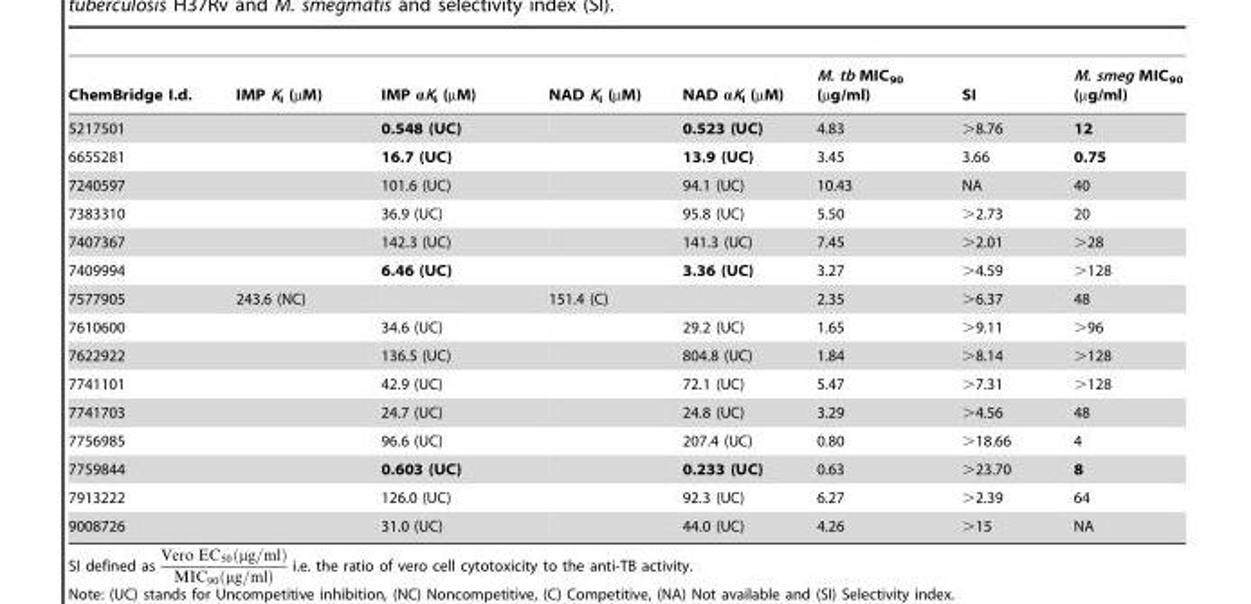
<table><thead><tr><td>ChemBridge I.d.</td><td>IMP K<sub>i</sub> (µM)</td><td>IMP αK<sub>i</sub> (µM)</td><td>NAD K<sub>i</sub> (µM)</td><td>NAD αK<sub>i</sub> (µM)</td><td>M. tb MIC<sub>90</sub> (µg/ml)</td><td>SI</td><td>M. smeg MIC<sub>90</sub> (µg/ml)</td></tr></thead><tbody><tr><td>5217501</td><td></td><td>0.548 (UC)</td><td></td><td>0.523 (UC)</td><td>4.83</td><td>&gt;8.76</td><td>12</td></tr><tr><td>6655281</td><td></td><td>16.7 (UC)</td><td></td><td>13.9 (UC)</td><td>3.45</td><td>3.66</td><td>0.75</td></tr><tr><td>7240597</td><td></td><td>101.6 (UC)</td><td></td><td>94.1 (UC)</td><td>10.43</td><td>NA</td><td>40</td></tr><tr><td>7383310</td><td></td><td>36.9 (UC)</td><td></td><td>95.8 (UC)</td><td>5.50</td><td>&gt;2.73</td><td>20</td></tr><tr><td>7407367</td><td></td><td>142.3 (UC)</td><td></td><td>141.3 (UC)</td><td>7.45</td><td>&gt;2.01</td><td>&gt;28</td></tr><tr><td>7409994</td><td></td><td>6.46 (UC)</td><td></td><td>3.36 (UC)</td><td>3.27</td><td>&gt;4.59</td><td>&gt;128</td></tr><tr><td>7577905</td><td>243.6 (NC)</td><td></td><td>151.4 (C)</td><td></td><td>2.35</td><td>&gt;6.37</td><td>48</td></tr><tr><td>7610600</td><td></td><td>34.6 (UC)</td><td></td><td>29.2 (UC)</td><td>1.65</td><td>&gt;9.11</td><td>&gt;96</td></tr><tr><td>7622922</td><td></td><td>136.5 (UC)</td><td></td><td>804.8 (UC)</td><td>1.84</td><td>&gt;8.14</td><td>&gt;128</td></tr><tr><td>7741101</td><td></td><td>42.9 (UC)</td><td></td><td>72.1 (UC)</td><td>5.47</td><td>&gt;7.31</td><td>&gt;128</td></tr><tr><td>7741703</td><td></td><td>24.7 (UC)</td><td></td><td>24.8 (UC)</td><td>3.29</td><td>&gt;4.56</td><td>48</td></tr><tr><td>7756985</td><td></td><td>96.6 (UC)</td><td></td><td>207.4 (UC)</td><td>0.80</td><td>&gt;18.66</td><td>4</td></tr><tr><td>7759844</td><td></td><td>0.603 (UC)</td><td></td><td>0.233 (UC)</td><td>0.63</td><td>&gt;23.70</td><td>8</td></tr><tr><td>7913222</td><td></td><td>126.0 (UC)</td><td></td><td>92.3 (UC)</td><td>6.27</td><td>&gt;2.39</td><td>64</td></tr><tr><td>9008726</td><td></td><td>31.0 (UC)</td><td></td><td>44.0 (UC)</td><td>4.26</td><td>&gt;15</td><td>NA</td></tr></tbody></table>